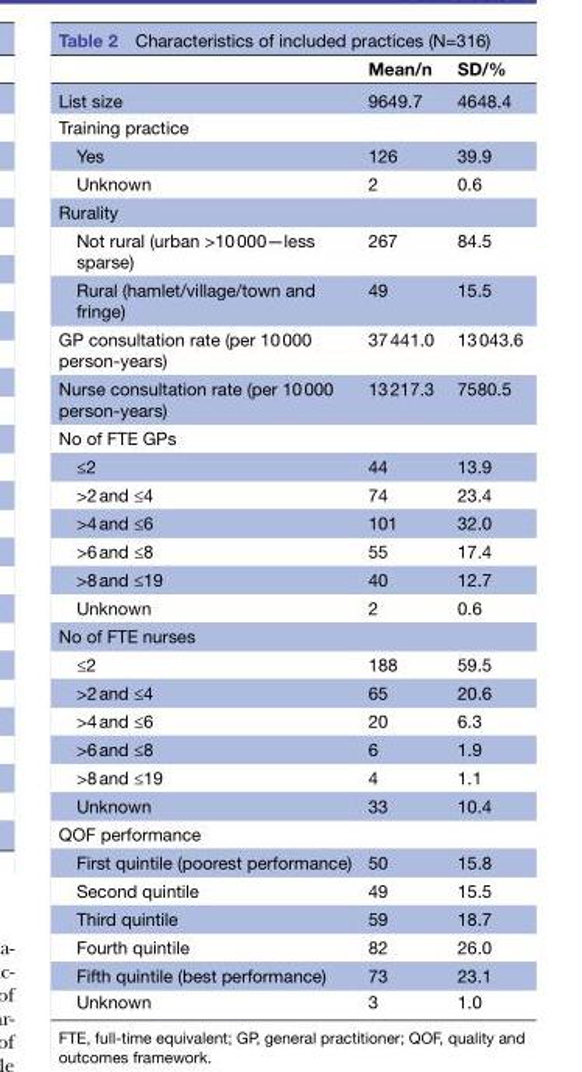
<table><thead><tr><td></td><td>Mean/n</td><td>SD/%</td></tr></thead><tbody><tr><td>List size</td><td>9649.7</td><td>4648.4</td></tr><tr><td colspan="3">Training practice</td></tr><tr><td>Yes</td><td>126</td><td>39.9</td></tr><tr><td>Unknown</td><td>2</td><td>0.6</td></tr><tr><td colspan="3">Rurality</td></tr><tr><td>Not rural (urban &gt;10 000—less sparse)</td><td>267</td><td>84.5</td></tr><tr><td>Rural (hamlet/village/town and fringe)</td><td>49</td><td>15.5</td></tr><tr><td>GP consultation rate (per 10 000 person-years)</td><td>37 441.0</td><td>13 043.6</td></tr><tr><td>Nurse consultation rate (per 10 000 person-years)</td><td>13 217.3</td><td>7580.5</td></tr><tr><td colspan="3">No of FTE GPs</td></tr><tr><td>≤2</td><td>44</td><td>13.9</td></tr><tr><td>&gt;2 and ≤4</td><td>74</td><td>23.4</td></tr><tr><td>&gt;4 and ≤6</td><td>101</td><td>32.0</td></tr><tr><td>&gt;6 and ≤8</td><td>55</td><td>17.4</td></tr><tr><td>&gt;8 and ≤19</td><td>40</td><td>12.7</td></tr><tr><td>Unknown</td><td>2</td><td>0.6</td></tr><tr><td colspan="3">No of FTE nurses</td></tr><tr><td>≤2</td><td>188</td><td>59.5</td></tr><tr><td>&gt;2 and ≤4</td><td>65</td><td>20.6</td></tr><tr><td>&gt;4 and ≤6</td><td>20</td><td>6.3</td></tr><tr><td>&gt;6 and ≤8</td><td>6</td><td>1.9</td></tr><tr><td>&gt;8 and ≤19</td><td>4</td><td>1.1</td></tr><tr><td>Unknown</td><td>33</td><td>10.4</td></tr><tr><td colspan="3">QOF performance</td></tr><tr><td>First quintile (poorest performance)</td><td>50</td><td>15.8</td></tr><tr><td>Second quintile</td><td>49</td><td>15.5</td></tr><tr><td>Third quintile</td><td>59</td><td>18.7</td></tr><tr><td>Fourth quintile</td><td>82</td><td>26.0</td></tr><tr><td>Fifth quintile (best performance)</td><td>73</td><td>23.1</td></tr><tr><td>Unknown</td><td>3</td><td>1.0</td></tr></tbody></table>